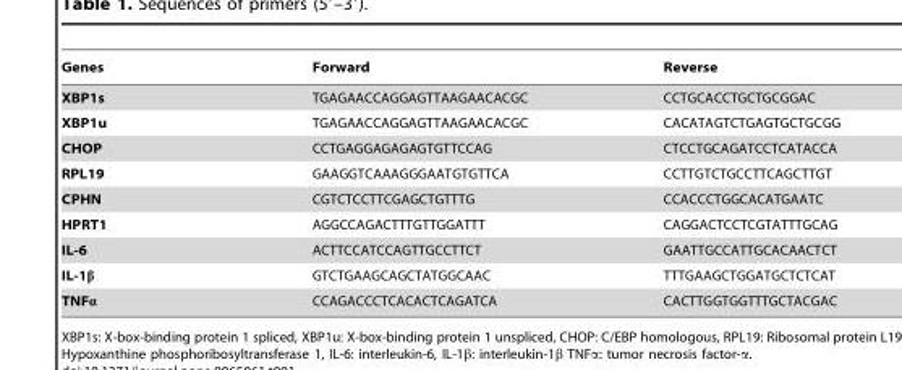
<table><thead><tr><td>Genes</td><td>Forward</td><td>Reverse</td></tr></thead><tbody><tr><td>XBP1s</td><td>TGAGAACCAGGAGTTAAGAACACGC</td><td>CCTGCACCTGCTGCGGAC</td></tr><tr><td>XBP1u</td><td>TGAGAACCAGGAGTTAAGAACACGC</td><td>CACATAGTCTGAGTGCTGCGG</td></tr><tr><td>CHOP</td><td>CCTGAGGAGAGAGTGTTCCAG</td><td>CTCCTGCAGATCCTCATACCA</td></tr><tr><td>RPL19</td><td>GAAGGTCAAAGGGAATGTGTTCA</td><td>CCTTGTCTGCCTTCAGCTTGT</td></tr><tr><td>CPHN</td><td>CGTCTCCTTCGAGCTGTTTG</td><td>CCACCCTGGCACATGAATC</td></tr><tr><td>HPRT1</td><td>AGGCCAGACTTTGTTGGATTT</td><td>CAGGACTCCTCGTATTTGCAG</td></tr><tr><td>IL-6</td><td>ACTTCCATCCAGTTGCCTTCT</td><td>GAATTGCCATTGCACAACTCT</td></tr><tr><td>IL-1β</td><td>GTCTGAAGCAGCTATGGCAAC</td><td>TTTGAAGCTGGATGCTCTCAT</td></tr><tr><td>TNFα</td><td>CCAGACCCTCACACTCAGATCA</td><td>CACTTGGTGGTTTGCTACGAC</td></tr></tbody></table>